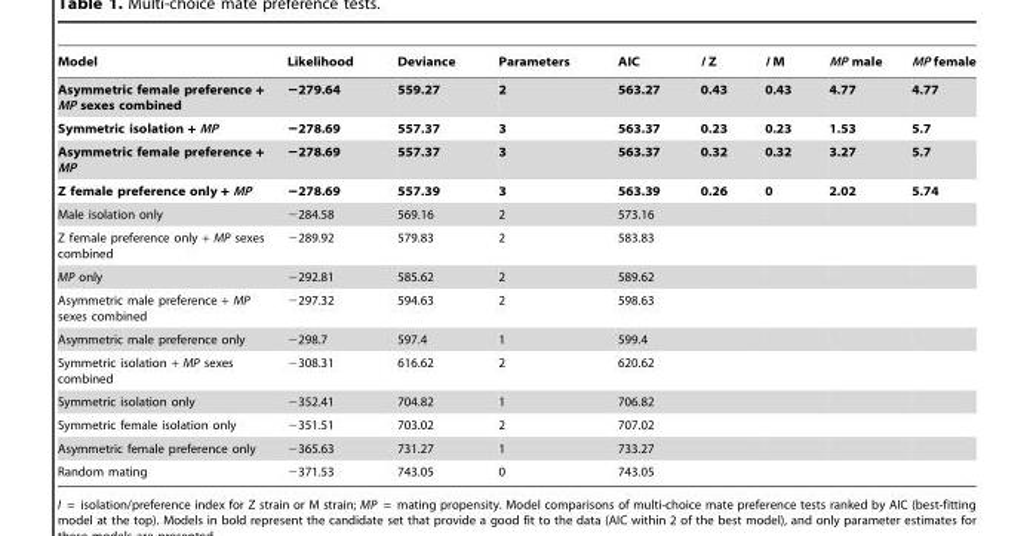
<table><thead><tr><td>Model</td><td>Likelihood</td><td>Deviance</td><td>Parameters</td><td>AIC</td><td>I Z</td><td>I M</td><td>MP male</td><td>MP female</td></tr></thead><tbody><tr><td>Asymmetric female preference + MP sexes combined</td><td>−279.64</td><td>559.27</td><td>2</td><td>563.27</td><td>0.43</td><td>0.43</td><td>4.77</td><td>4.77</td></tr><tr><td>Symmetric isolation + MP</td><td>−278.69</td><td>557.37</td><td>3</td><td>563.37</td><td>0.23</td><td>0.23</td><td>1.53</td><td>5.7</td></tr><tr><td>Asymmetric female preference + MP</td><td>−278.69</td><td>557.37</td><td>3</td><td>563.37</td><td>0.32</td><td>0.32</td><td>3.27</td><td>5.7</td></tr><tr><td>Z female preference only + MP</td><td>−278.69</td><td>557.39</td><td>3</td><td>563.39</td><td>0.26</td><td>0</td><td>2.02</td><td>5.74</td></tr><tr><td>Male isolation only</td><td>−284.58</td><td>569.16</td><td>2</td><td>573.16</td><td></td><td></td><td></td><td></td></tr><tr><td>Z female preference only + MP sexes combined</td><td>−289.92</td><td>579.83</td><td>2</td><td>583.83</td><td></td><td></td><td></td><td></td></tr><tr><td>MP only</td><td>−292.81</td><td>585.62</td><td>2</td><td>589.62</td><td></td><td></td><td></td><td></td></tr><tr><td>Asymmetric male preference + MP sexes combined</td><td>−297.32</td><td>594.63</td><td>2</td><td>598.63</td><td></td><td></td><td></td><td></td></tr><tr><td>Asymmetric male preference only</td><td>−298.7</td><td>597.4</td><td>1</td><td>599.4</td><td></td><td></td><td></td><td></td></tr><tr><td>Symmetric isolation + MP sexes combined</td><td>−308.31</td><td>616.62</td><td>2</td><td>620.62</td><td></td><td></td><td></td><td></td></tr><tr><td>Symmetric isolation only</td><td>−352.41</td><td>704.82</td><td>1</td><td>706.82</td><td></td><td></td><td></td><td></td></tr><tr><td>Symmetric female isolation only</td><td>−351.51</td><td>703.02</td><td>2</td><td>707.02</td><td></td><td></td><td></td><td></td></tr><tr><td>Asymmetric female preference only</td><td>−365.63</td><td>731.27</td><td>1</td><td>733.27</td><td></td><td></td><td></td><td></td></tr><tr><td>Random mating</td><td>−371.53</td><td>743.05</td><td>0</td><td>743.05</td><td></td><td></td><td></td><td></td></tr></tbody></table>